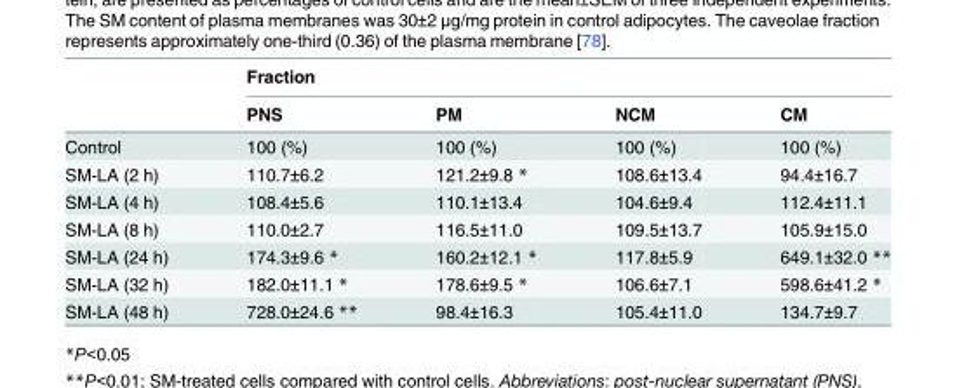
<table><thead><tr><td rowspan="2"></td><td colspan="4">Fraction</td></tr><tr><td>PNS</td><td>PM</td><td>NCM</td><td>CM</td></tr></thead><tbody><tr><td>Control</td><td>100 (%)</td><td>100 (%)</td><td>100 (%)</td><td>100 (%)</td></tr><tr><td>SM-LA (2 h)</td><td>110.7±6.2</td><td>121.2±9.8 *</td><td>108.6±13.4</td><td>94.4±16.7</td></tr><tr><td>SM-LA (4 h)</td><td>108.4±5.6</td><td>110.1±13.4</td><td>104.6±9.4</td><td>112.4±11.1</td></tr><tr><td>SM-LA (8 h)</td><td>110.0±2.7</td><td>116.5±11.0</td><td>109.5±13.7</td><td>105.9±15.0</td></tr><tr><td>SM-LA (24 h)</td><td>174.3±9.6 *</td><td>160.2±12.1 *</td><td>117.8±5.9</td><td>649.1±32.0 **</td></tr><tr><td>SM-LA (32 h)</td><td>182.0±11.1 *</td><td>178.6±9.5 *</td><td>106.6±7.1</td><td>598.6±41.2 *</td></tr><tr><td>SM-LA (48 h)</td><td>728.0±24.6 **</td><td>98.4±16.3</td><td>105.4±11.0</td><td>134.7±9.7</td></tr></tbody></table>